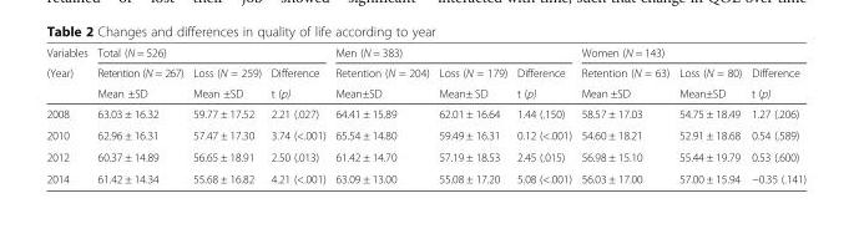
<table><thead><tr><td rowspan="3">Variables (Year)</td><td colspan="3">Total (N = 526)</td><td colspan="3">Men (N = 383)</td><td colspan="3">Women (N = 143)</td></tr><tr><td rowspan="2">Retention (N = 267) Mean ±SD</td><td rowspan="2">Loss (N = 259) Mean ±SD</td><td rowspan="2">Difference t (p)</td><td rowspan="2">Retention (N = 204) Mean±SD</td><td rowspan="2">Loss (N = 179) Mean± SD</td><td rowspan="2">Difference t (p)</td><td rowspan="2">Retention (N = 63) Mean ±SD</td><td rowspan="2">Loss (N = 80) Mean±SD</td><td rowspan="2">Difference t (p)</td></tr><tr></tr></thead><tbody><tr><td>2008</td><td>63.03 ± 16.32</td><td>59.77 ± 17.52</td><td>2.21 (.027)</td><td>64.41 ± 15.89</td><td>62.01 ± 16.64</td><td>1.44 (.150)</td><td>58.57 ± 17.03</td><td>54.75 ± 18.49</td><td>1.27 (.206)</td></tr><tr><td>2010</td><td>62.96 ± 16.31</td><td>57.47 ± 17.30</td><td>3.74 (&lt;.001)</td><td>65.54 ± 14.80</td><td>59.49 ± 16.31</td><td>0.12 (&lt;.001)</td><td>54.60 ± 18.21</td><td>52.91 ± 18.68</td><td>0.54 (.589)</td></tr><tr><td>2012</td><td>60.37 ± 14.89</td><td>56.65 ± 18.91</td><td>2.50 (.013)</td><td>61.42 ± 14.70</td><td>57.19 ± 18.53</td><td>2.45 (.015)</td><td>56.98 ± 15.10</td><td>55.44 ± 19.79</td><td>0.53 (.600)</td></tr><tr><td>2014</td><td>61.42 ± 14.34</td><td>55.68 ± 16.82</td><td>4.21 (&lt;.001)</td><td>63.09 ± 13.00</td><td>55.08 ± 17.20</td><td>5.08 (&lt;.001)</td><td>56.03 ± 17.00</td><td>57.00 ± 15.94</td><td>−0.35 (.141)</td></tr></tbody></table>